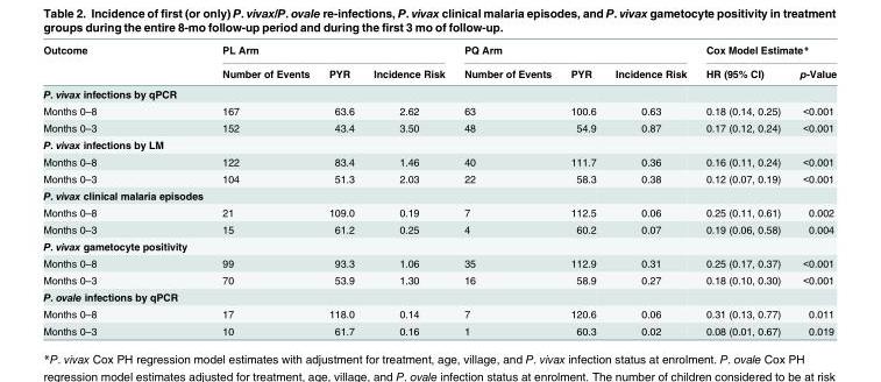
<table><thead><tr><td rowspan="2">Outcome</td><td colspan="3">PL Arm</td><td colspan="3">PQ Arm</td><td colspan="2">Cox Model Estimate*</td></tr><tr><td>Number of Events</td><td>PYR</td><td>Incidence Risk</td><td>Number of Events</td><td>PYR</td><td>Incidence Risk</td><td>HR (95% CI)</td><td>p-Value</td></tr></thead><tbody><tr><td colspan="9">P. vivax infections by qPCR</td></tr><tr><td>Months 0–8</td><td>167</td><td>63.6</td><td>2.62</td><td>63</td><td>100.6</td><td>0.63</td><td>0.18 (0.14, 0.25)</td><td>&lt;0.001</td></tr><tr><td>Months 0–3</td><td>152</td><td>43.4</td><td>3.50</td><td>48</td><td>54.9</td><td>0.87</td><td>0.17 (0.12, 0.24)</td><td>&lt;0.001</td></tr><tr><td colspan="9">P. vivax infections by LM</td></tr><tr><td>Months 0–8</td><td>122</td><td>83.4</td><td>1.46</td><td>40</td><td>111.7</td><td>0.36</td><td>0.16 (0.11, 0.24)</td><td>&lt;0.001</td></tr><tr><td>Months 0–3</td><td>104</td><td>51.3</td><td>2.03</td><td>22</td><td>58.3</td><td>0.38</td><td>0.12 (0.07, 0.19)</td><td>&lt;0.001</td></tr><tr><td colspan="9">P. vivax clinical malaria episodes</td></tr><tr><td>Months 0–8</td><td>21</td><td>109.0</td><td>0.19</td><td>7</td><td>112.5</td><td>0.06</td><td>0.25 (0.11, 0.61)</td><td>0.002</td></tr><tr><td>Months 0–3</td><td>15</td><td>61.2</td><td>0.25</td><td>4</td><td>60.2</td><td>0.07</td><td>0.19 (0.06, 0.58)</td><td>0.004</td></tr><tr><td colspan="9">P. vivax gametocyte positivity</td></tr><tr><td>Months 0–8</td><td>99</td><td>93.3</td><td>1.06</td><td>35</td><td>112.9</td><td>0.31</td><td>0.25 (0.17, 0.37)</td><td>&lt;0.001</td></tr><tr><td>Months 0–3</td><td>70</td><td>53.9</td><td>1.30</td><td>16</td><td>58.9</td><td>0.27</td><td>0.18 (0.10, 0.30)</td><td>&lt;0.001</td></tr><tr><td colspan="9">P. ovale infections by qPCR</td></tr><tr><td>Months 0–8</td><td>17</td><td>118.0</td><td>0.14</td><td>7</td><td>120.6</td><td>0.06</td><td>0.31 (0.13, 0.77)</td><td>0.011</td></tr><tr><td>Months 0–3</td><td>10</td><td>61.7</td><td>0.16</td><td>1</td><td>60.3</td><td>0.02</td><td>0.08 (0.01, 0.67)</td><td>0.019</td></tr></tbody></table>